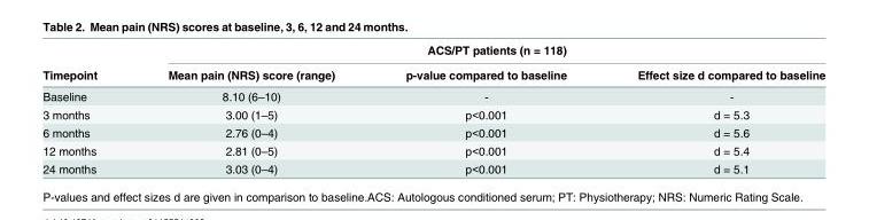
<table><thead><tr><td rowspan="2">Timepoint</td><td colspan="3">ACS/PT patients (n = 118)</td></tr><tr><td>Mean pain (NRS) score (range)</td><td>p-value compared to baseline</td><td>Effect size d compared to baseline</td></tr></thead><tbody><tr><td>Baseline</td><td>8.10 (6–10)</td><td>-</td><td>-</td></tr><tr><td>3 months</td><td>3.00 (1–5)</td><td>p&lt;0.001</td><td>d = 5.3</td></tr><tr><td>6 months</td><td>2.76 (0–4)</td><td>p&lt;0.001</td><td>d = 5.6</td></tr><tr><td>12 months</td><td>2.81 (0–5)</td><td>p&lt;0.001</td><td>d = 5.4</td></tr><tr><td>24 months</td><td>3.03 (0–4)</td><td>p&lt;0.001</td><td>d = 5.1</td></tr></tbody></table>